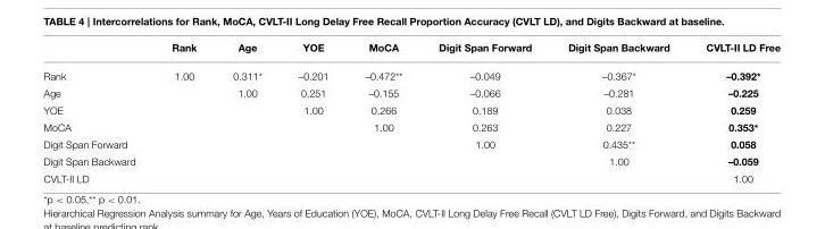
<table><thead><tr><td></td><td>Rank</td><td>Age</td><td>YOE</td><td>MoCA</td><td>Digit Span Forward</td><td>Digit Span Backward</td><td>CVLT-II LD Free</td></tr></thead><tbody><tr><td>Rank</td><td>1.00</td><td>0.311*</td><td>–0.201</td><td>–0.472**</td><td>–0.049</td><td>–0.367*</td><td>–0.392*</td></tr><tr><td>Age</td><td></td><td>1.00</td><td>0.251</td><td>–0.155</td><td>–0.066</td><td>–0.281</td><td>–0.225</td></tr><tr><td>YOE</td><td></td><td></td><td>1.00</td><td>0.266</td><td>0.189</td><td>0.038</td><td>0.259</td></tr><tr><td>MoCA</td><td></td><td></td><td></td><td>1.00</td><td>0.263</td><td>0.227</td><td>0.353*</td></tr><tr><td>Digit Span Forward</td><td></td><td></td><td></td><td></td><td>1.00</td><td>0.435**</td><td>0.058</td></tr><tr><td>Digit Span Backward</td><td></td><td></td><td></td><td></td><td></td><td>1.00</td><td>–0.059</td></tr><tr><td>CVLT-II LD</td><td></td><td></td><td></td><td></td><td></td><td></td><td>1.00</td></tr></tbody></table>